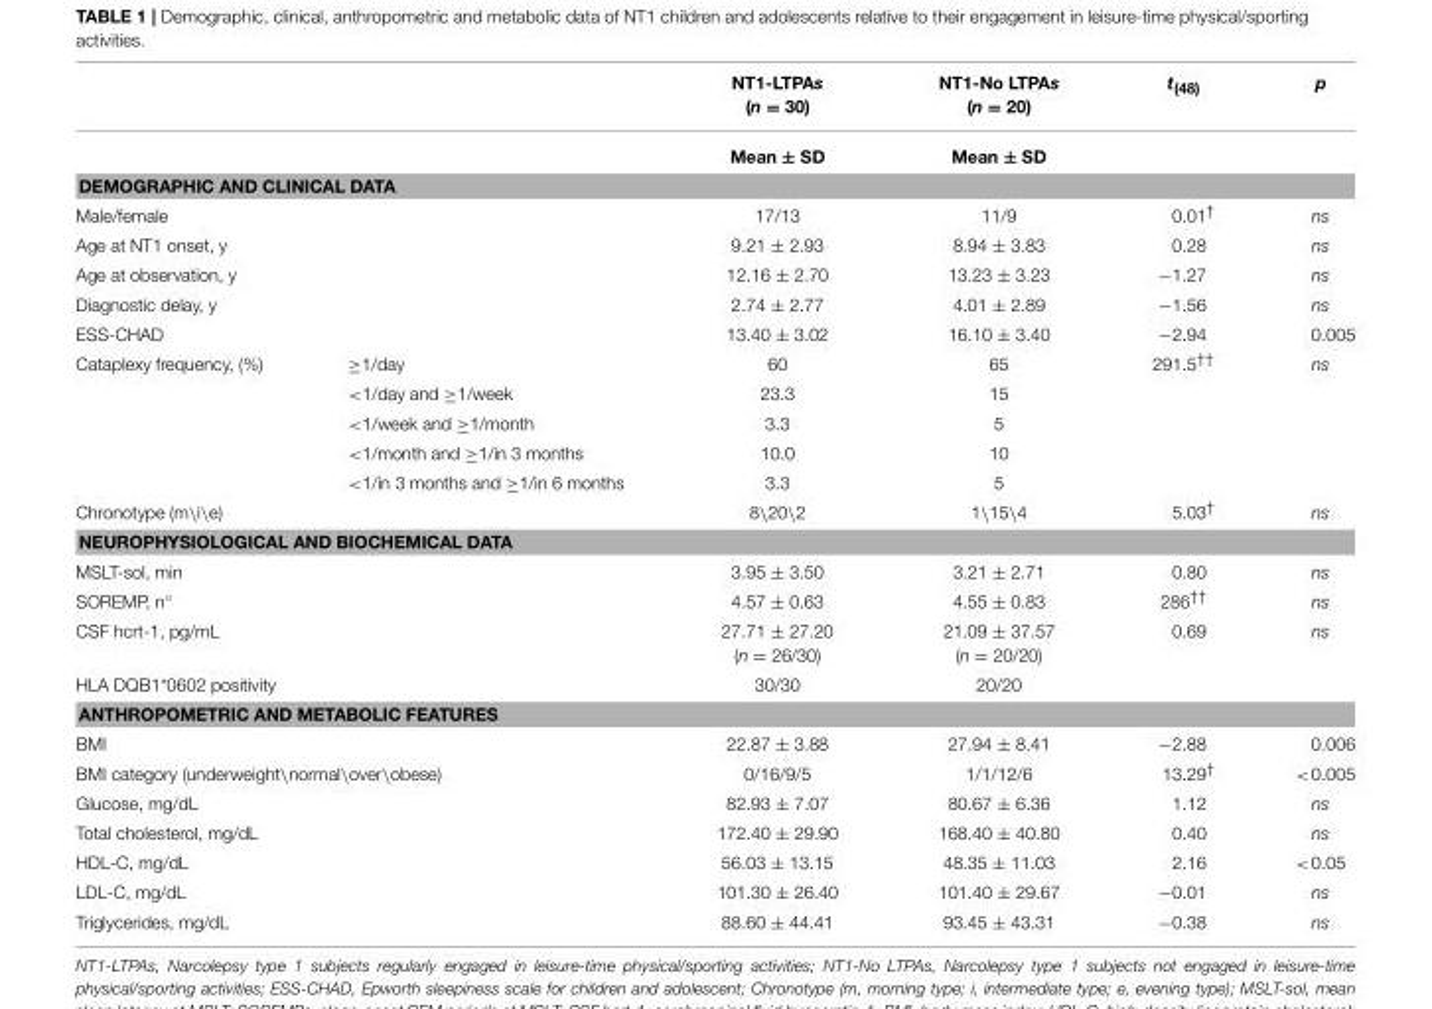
<table><thead><tr><td></td><td></td><td>NT1-LTPAs (n = 30)</td><td>NT1-No LTPAs (n = 20)</td><td>t<sub>(48)</sub></td><td>p</td></tr></thead><tbody><tr><td></td><td></td><td>Mean ± SD</td><td>Mean ± SD</td><td></td><td></td></tr><tr><td colspan="6">DEMOGRAPHIC AND CLINICAL DATA</td></tr><tr><td colspan="2">Male/female</td><td>17/13</td><td>11/9</td><td>0.01<sup>†</sup></td><td>ns</td></tr><tr><td colspan="2">Age at NT1 onset, y</td><td>9.21 ± 2.93</td><td>8.94 ± 3.83</td><td>0.28</td><td>ns</td></tr><tr><td colspan="2">Age at observation, y</td><td>12.16 ± 2.70</td><td>13.23 ± 3.23</td><td>−1.27</td><td>ns</td></tr><tr><td colspan="2">Diagnostic delay, y</td><td>2.74 ± 2.77</td><td>4.01 ± 2.89</td><td>−1.56</td><td>ns</td></tr><tr><td colspan="2">ESS-CHAD</td><td>13.40 ± 3.02</td><td>16.10 ± 3.40</td><td>−2.94</td><td>0.005</td></tr><tr><td rowspan="5">Cataplexy frequency, (%)</td><td>≥1/day</td><td>60</td><td>65</td><td>291.5<sup>††</sup></td><td>ns</td></tr><tr><td>&lt;1/day and ≥1/week</td><td>23.3</td><td>15</td><td></td><td></td></tr><tr><td>&lt;1/week and ≥1/month</td><td>3.3</td><td>5</td><td></td><td></td></tr><tr><td>&lt;1/month and ≥1/in 3 months</td><td>10.0</td><td>10</td><td></td><td></td></tr><tr><td>&lt;1/in 3 months and ≥1/in 6 months</td><td>3.3</td><td>5</td><td></td><td></td></tr><tr><td colspan="2">Chronotype (m\i\e)</td><td>8\20\2</td><td>1\15\4</td><td>5.03<sup>†</sup></td><td>ns</td></tr><tr><td colspan="6">NEUROPHYSIOLOGICAL AND BIOCHEMICAL DATA</td></tr><tr><td colspan="2">MSLT-sol, min</td><td>3.95 ± 3.50</td><td>3.21 ± 2.71</td><td>0.80</td><td>ns</td></tr><tr><td colspan="2">SOREMP, n◦</td><td>4.57 ± 0.63</td><td>4.55 ± 0.83</td><td>286<sup>††</sup></td><td>ns</td></tr><tr><td colspan="2">CSF hcrt-1, pg/mL</td><td>27.71 ± 27.20 (n = 26/30)</td><td>21.09 ± 37.57 (n = 20/20)</td><td>0.69</td><td>ns</td></tr><tr><td colspan="2">HLA DQB1*0602 positivity</td><td>30/30</td><td>20/20</td><td></td><td></td></tr><tr><td colspan="6">ANTHROPOMETRIC AND METABOLIC FEATURES</td></tr><tr><td colspan="2">BMI</td><td>22.87 ± 3.88</td><td>27.94 ± 8.41</td><td>−2.88</td><td>0.006</td></tr><tr><td colspan="2">BMI category (underweight\normal\over\obese)</td><td>0/16/9/5</td><td>1/1/12/6</td><td>13.29<sup>†</sup></td><td>&lt;0.005</td></tr><tr><td colspan="2">Glucose, mg/dL</td><td>82.93 ± 7.07</td><td>80.67 ± 6.36</td><td>1.12</td><td>ns</td></tr><tr><td colspan="2">Total cholesterol, mg/dL</td><td>172.40 ± 29.90</td><td>168.40 ± 40.80</td><td>0.40</td><td>ns</td></tr><tr><td colspan="2">HDL-C, mg/dL</td><td>56.03 ± 13.15</td><td>48.35 ± 11.03</td><td>2.16</td><td>&lt;0.05</td></tr><tr><td colspan="2">LDL-C, mg/dL</td><td>101.30 ± 26.40</td><td>101.40 ± 29.67</td><td>−0.01</td><td>ns</td></tr><tr><td colspan="2">Triglycerides, mg/dL</td><td>88.60 ± 44.41</td><td>93.45 ± 43.31</td><td>−0.38</td><td>ns</td></tr></tbody></table>